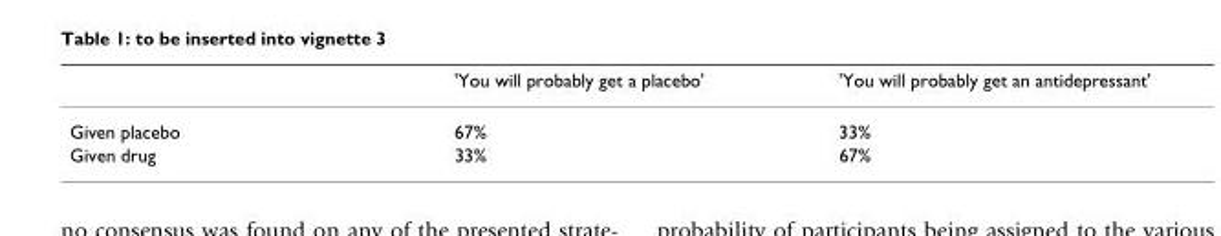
<table><thead><tr><td></td><td>&#x27;You will probably get a placebo&#x27;</td><td>&#x27;You will probably get an antidepressant&#x27;</td></tr></thead><tbody><tr><td>Given placebo</td><td>67%</td><td>33%</td></tr><tr><td>Given drug</td><td>33%</td><td>67%</td></tr></tbody></table>